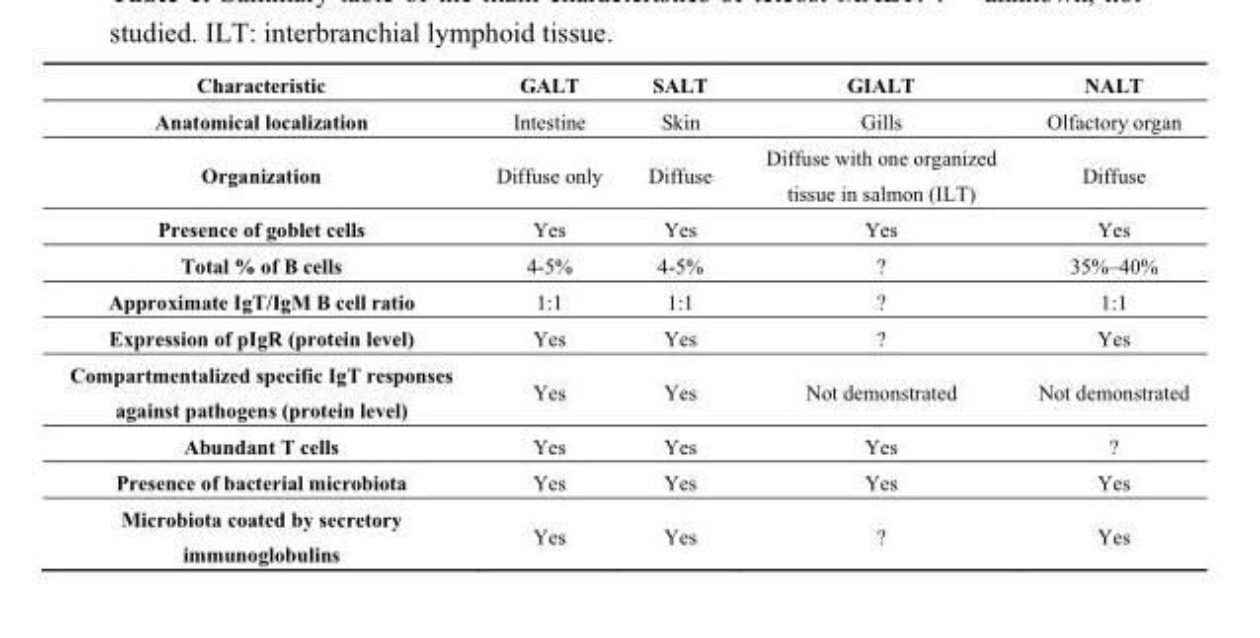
<table><thead><tr><td>Characteristic</td><td>GALT</td><td>SALT</td><td>GIALT</td><td>NALT</td></tr></thead><tbody><tr><td>Anatomical localization</td><td>Intestine</td><td>Skin</td><td>Gills</td><td>Olfactory organ</td></tr><tr><td>Organization</td><td>Diffuse only</td><td>Diffuse</td><td>Diffuse with one organized tissue in salmon (ILT)</td><td>Diffuse</td></tr><tr><td>Presence of goblet cells</td><td>Yes</td><td>Yes</td><td>Yes</td><td>Yes</td></tr><tr><td>Total % of B cells</td><td>4-5%</td><td>4-5%</td><td>?</td><td>35%–40%</td></tr><tr><td>Approximate IgT/IgM B cell ratio</td><td>1:1</td><td>1:1</td><td>?</td><td>1:1</td></tr><tr><td>Expression of pIgR (protein level)</td><td>Yes</td><td>Yes</td><td>?</td><td>Yes</td></tr><tr><td>Compartmentalized specific IgT responses against pathogens (protein level)</td><td>Yes</td><td>Yes</td><td>Not demonstrated</td><td>Not demonstrated</td></tr><tr><td>Abundant T cells</td><td>Yes</td><td>Yes</td><td>Yes</td><td>?</td></tr><tr><td>Presence of bacterial microbiota</td><td>Yes</td><td>Yes</td><td>Yes</td><td>Yes</td></tr><tr><td>Microbiota coated by secretory immunoglobulins</td><td>Yes</td><td>Yes</td><td>?</td><td>Yes</td></tr></tbody></table>